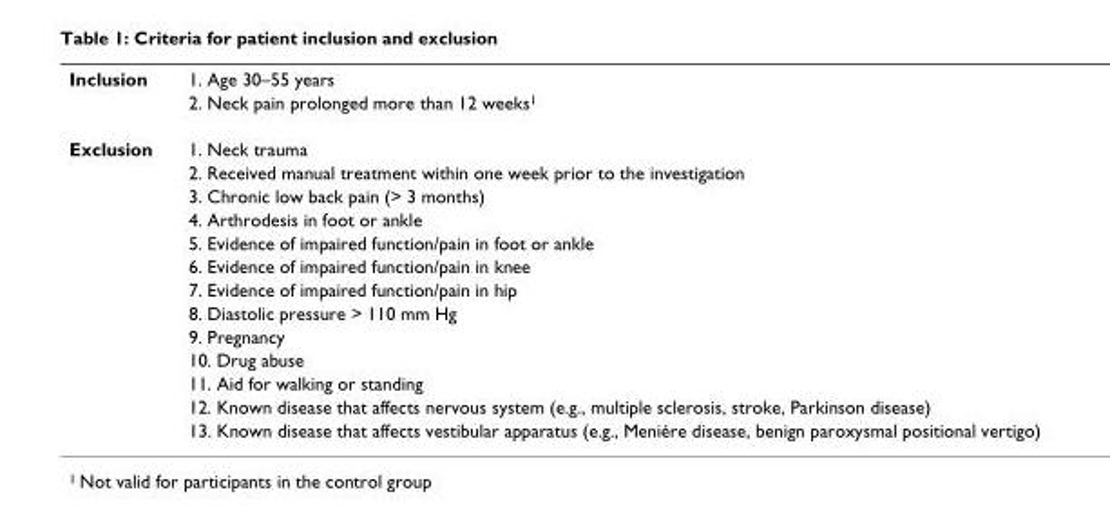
<table><tbody><tr><td rowspan="2">Inclusion</td><td>1. Age 30–55 years</td></tr><tr><td>2. Neck pain prolonged more than 12 weeks<sup>1</sup></td></tr><tr><td rowspan="13">Exclusion</td><td>1. Neck trauma</td></tr><tr><td>2. Received manual treatment within one week prior to the investigation</td></tr><tr><td>3. Chronic low back pain (&gt; 3 months)</td></tr><tr><td>4. Arthrodesis in foot or ankle</td></tr><tr><td>5. Evidence of impaired function/pain in foot or ankle</td></tr><tr><td>6. Evidence of impaired function/pain in knee</td></tr><tr><td>7. Evidence of impaired function/pain in hip</td></tr><tr><td>8. Diastolic pressure &gt; 110 mm Hg</td></tr><tr><td>9. Pregnancy</td></tr><tr><td>10. Drug abuse</td></tr><tr><td>11. Aid for walking or standing</td></tr><tr><td>12. Known disease that affects nervous system (e.g., multiple sclerosis, stroke, Parkinson disease)</td></tr><tr><td>13. Known disease that affects vestibular apparatus (e.g., Meniére disease, benign paroxysmal positional vertigo)</td></tr></tbody></table>